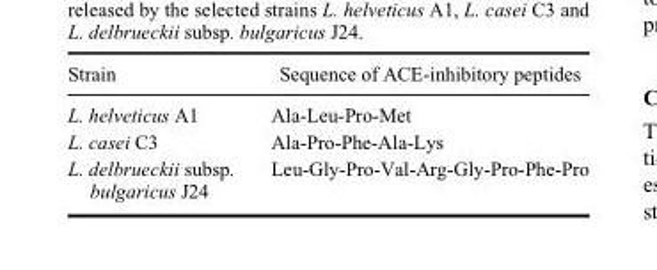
<table><thead><tr><td>Strain</td><td>Sequence of ACE-inhibitory peptides</td></tr></thead><tbody><tr><td>L. helveticus A1</td><td>Ala-Leu-Pro-Met</td></tr><tr><td>L. casei C3</td><td>Ala-Pro-Phe-Ala-Lys</td></tr><tr><td>L. delbrueckii subsp. bulgaricus J24</td><td>Leu-Gly-Pro-Val-Arg-Gly-Pro-Phe-Pro</td></tr></tbody></table>